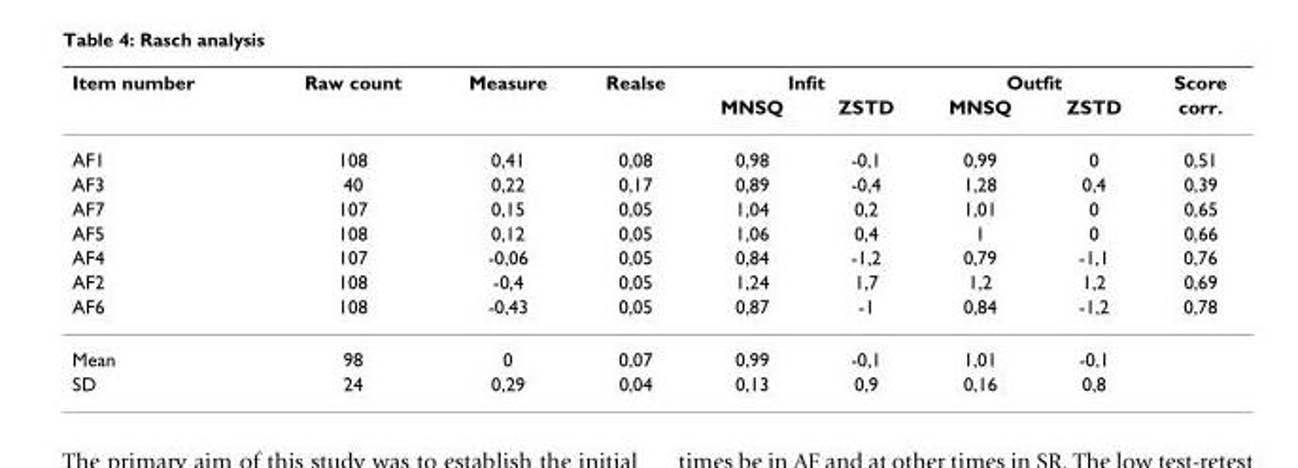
<table><thead><tr><td rowspan="2">Item number</td><td rowspan="2">Raw count</td><td rowspan="2">Measure</td><td rowspan="2">Realse</td><td colspan="2">Infit</td><td colspan="2">Outfit</td><td rowspan="2">Score corr.</td></tr><tr><td>MNSQ</td><td>ZSTD</td><td>MNSQ</td><td>ZSTD</td></tr></thead><tbody><tr><td>AF1</td><td>108</td><td>0,41</td><td>0,08</td><td>0,98</td><td>-0,1</td><td>0,99</td><td>0</td><td>0,51</td></tr><tr><td>AF3</td><td>40</td><td>0,22</td><td>0,17</td><td>0,89</td><td>-0,4</td><td>1,28</td><td>0,4</td><td>0,39</td></tr><tr><td>AF7</td><td>107</td><td>0,15</td><td>0,05</td><td>1,04</td><td>0,2</td><td>1,01</td><td>0</td><td>0,65</td></tr><tr><td>AF5</td><td>108</td><td>0,12</td><td>0,05</td><td>1,06</td><td>0,4</td><td>1</td><td>0</td><td>0,66</td></tr><tr><td>AF4</td><td>107</td><td>-0,06</td><td>0,05</td><td>0,84</td><td>-1,2</td><td>0,79</td><td>-1,1</td><td>0,76</td></tr><tr><td>AF2</td><td>108</td><td>-0,4</td><td>0,05</td><td>1,24</td><td>1,7</td><td>1,2</td><td>1,2</td><td>0,69</td></tr><tr><td>AF6</td><td>108</td><td>-0,43</td><td>0,05</td><td>0,87</td><td>-1</td><td>0,84</td><td>-1,2</td><td>0,78</td></tr><tr><td>Mean</td><td>98</td><td>0</td><td>0,07</td><td>0,99</td><td>-0,1</td><td>1,01</td><td>-0,1</td><td></td></tr><tr><td>SD</td><td>24</td><td>0,29</td><td>0,04</td><td>0,13</td><td>0,9</td><td>0,16</td><td>0,8</td><td></td></tr></tbody></table>